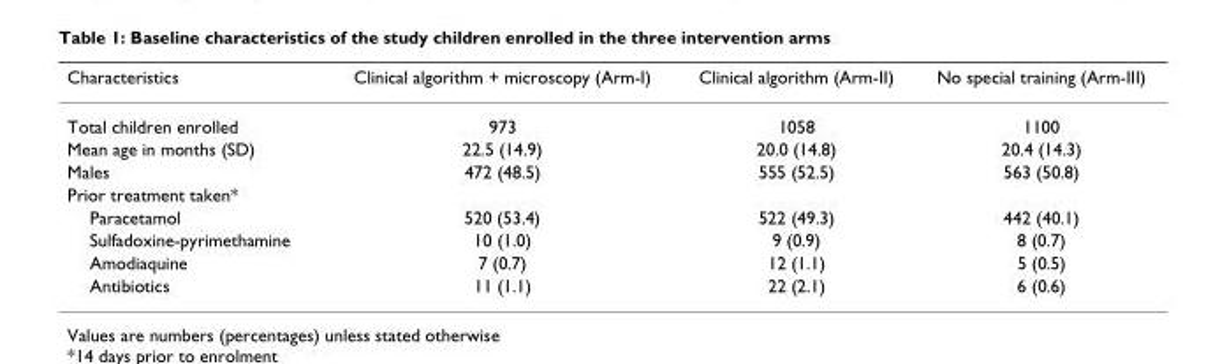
<table><thead><tr><td>Characteristics</td><td>Clinical algorithm + microscopy (Arm-I)</td><td>Clinical algorithm (Arm-II)</td><td>No special training (Arm-III)</td></tr></thead><tbody><tr><td>Total children enrolled</td><td>973</td><td>1058</td><td>1100</td></tr><tr><td>Mean age in months (SD)</td><td>22.5 (14.9)</td><td>20.0 (14.8)</td><td>20.4 (14.3)</td></tr><tr><td>Males</td><td>472 (48.5)</td><td>555 (52.5)</td><td>563 (50.8)</td></tr><tr><td colspan="4">Prior treatment taken*</td></tr><tr><td>Paracetamol</td><td>520 (53.4)</td><td>522 (49.3)</td><td>442 (40.1)</td></tr><tr><td>Sulfadoxine-pyrimethamine</td><td>10 (1.0)</td><td>9 (0.9)</td><td>8 (0.7)</td></tr><tr><td>Amodiaquine</td><td>7 (0.7)</td><td>12 (1.1)</td><td>5 (0.5)</td></tr><tr><td>Antibiotics</td><td>11 (1.1)</td><td>22 (2.1)</td><td>6 (0.6)</td></tr></tbody></table>